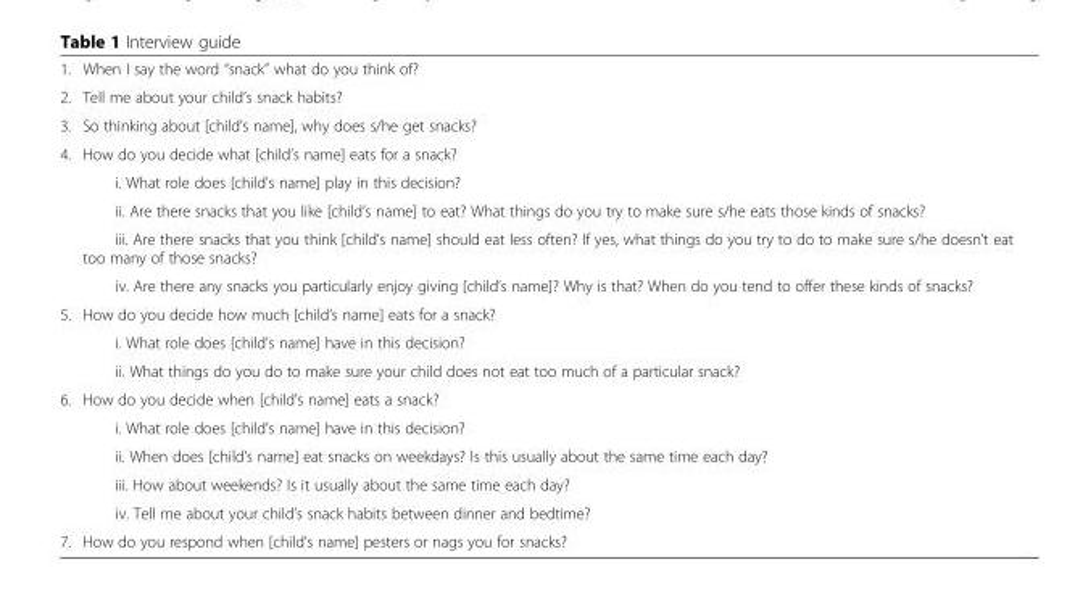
<table><tbody><tr><td>1.</td><td>When I say the word “snack” what do you think of?</td></tr><tr><td>2.</td><td>Tell me about your child’s snack habits?</td></tr><tr><td>3.</td><td>So thinking about [child’s name], why does s/he get snacks?</td></tr><tr><td rowspan="5">4.</td><td>How do you decide what [child’s name] eats for a snack?</td></tr><tr><td>i. What role does [child’s name] play in this decision?</td></tr><tr><td>ii. Are there snacks that you like [child’s name] to eat? What things do you try to make sure s/he eats those kinds of snacks?</td></tr><tr><td>iii. Are there snacks that you think [child’s name] should eat less often? If yes, what things do you try to do to make sure s/he doesn’t eat too many of those snacks?</td></tr><tr><td>iv. Are there any snacks you particularly enjoy giving [child’s name]? Why is that? When do you tend to offer these kinds of snacks?</td></tr><tr><td rowspan="3">5.</td><td>How do you decide how much [child’s name] eats for a snack?</td></tr><tr><td>i. What role does [child’s name] have in this decision?</td></tr><tr><td>ii. What things do you do to make sure your child does not eat too much of a particular snack?</td></tr><tr><td rowspan="5">6.</td><td>How do you decide when [child’s name] eats a snack?</td></tr><tr><td>i. What role does [child’s name] have in this decision?</td></tr><tr><td>ii. When does [child’s name] eat snacks on weekdays? Is this usually about the same time each day?</td></tr><tr><td>iii. How about weekends? Is it usually about the same time each day?</td></tr><tr><td>iv. Tell me about your child’s snack habits between dinner and bedtime?</td></tr><tr><td>7.</td><td>How do you respond when [child’s name] pesters or nags you for snacks?</td></tr></tbody></table>